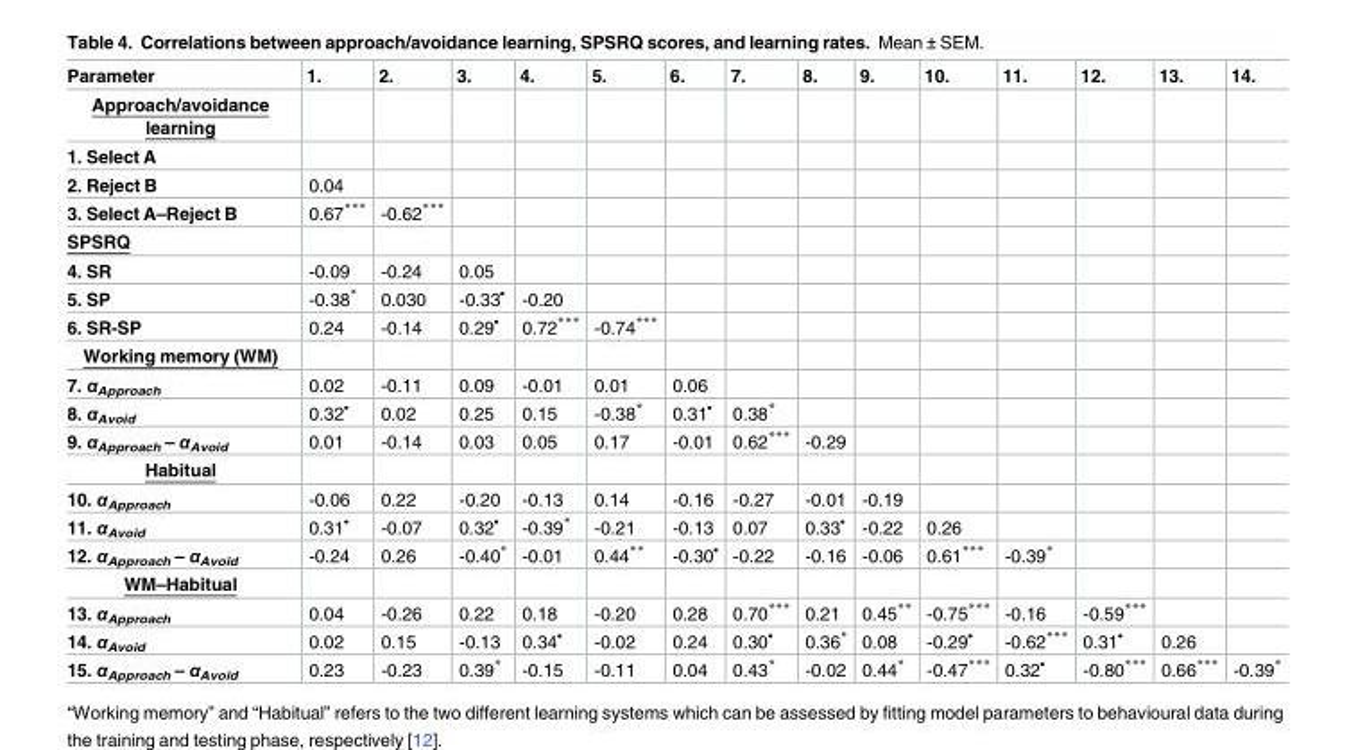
<table><thead><tr><td>Parameter</td><td>1.</td><td>2.</td><td>3.</td><td>4.</td><td>5.</td><td>6.</td><td>7.</td><td>8.</td><td>9.</td><td>10.</td><td>11.</td><td>12.</td><td>13.</td><td>14.</td></tr></thead><tbody><tr><td colspan="15">Approach/avoidance learning</td></tr><tr><td colspan="15">1. Select A</td></tr><tr><td>2. Reject B</td><td>0.04</td><td></td><td></td><td></td><td></td><td></td><td></td><td></td><td></td><td></td><td></td><td></td><td></td><td></td></tr><tr><td>3. Select A–Reject B</td><td>0.67***</td><td>-0.62***</td><td></td><td></td><td></td><td></td><td></td><td></td><td></td><td></td><td></td><td></td><td></td><td></td></tr><tr><td colspan="15">SPSRQ</td></tr><tr><td>4. SR</td><td>-0.09</td><td>-0.24</td><td>0.05</td><td></td><td></td><td></td><td></td><td></td><td></td><td></td><td></td><td></td><td></td><td></td></tr><tr><td>5. SP</td><td>-0.38*</td><td>0.030</td><td>-0.33<sup>•</sup></td><td>-0.20</td><td></td><td></td><td></td><td></td><td></td><td></td><td></td><td></td><td></td><td></td></tr><tr><td>6. SR-SP</td><td>0.24</td><td>-0.14</td><td>0.29<sup>•</sup></td><td>0.72***</td><td>-0.74***</td><td></td><td></td><td></td><td></td><td></td><td></td><td></td><td></td><td></td></tr><tr><td colspan="15">Working memory (WM)</td></tr><tr><td>7. α<sub>Approach</sub></td><td>0.02</td><td>-0.11</td><td>0.09</td><td>-0.01</td><td>0.01</td><td>0.06</td><td></td><td></td><td></td><td></td><td></td><td></td><td></td><td></td></tr><tr><td>8. α<sub>Avoid</sub></td><td>0.32<sup>•</sup></td><td>0.02</td><td>0.25</td><td>0.15</td><td>-0.38*</td><td>0.31<sup>•</sup></td><td>0.38*</td><td></td><td></td><td></td><td></td><td></td><td></td><td></td></tr><tr><td>9. α<sub>Approach</sub> – α<sub>Avoid</sub></td><td>0.01</td><td>-0.14</td><td>0.03</td><td>0.05</td><td>0.17</td><td>-0.01</td><td>0.62***</td><td>-0.29</td><td></td><td></td><td></td><td></td><td></td><td></td></tr><tr><td colspan="15">Habitual</td></tr><tr><td>10. α<sub>Approach</sub></td><td>-0.06</td><td>0.22</td><td>-0.20</td><td>-0.13</td><td>0.14</td><td>-0.16</td><td>-0.27</td><td>-0.01</td><td>-0.19</td><td></td><td></td><td></td><td></td><td></td></tr><tr><td>11. α<sub>Avoid</sub></td><td>0.31<sup>•</sup></td><td>-0.07</td><td>0.32<sup>•</sup></td><td>-0.39*</td><td>-0.21</td><td>-0.13</td><td>0.07</td><td>0.33<sup>•</sup></td><td>-0.22</td><td>0.26</td><td></td><td></td><td></td><td></td></tr><tr><td>12. α<sub>Approach</sub> – α<sub>Avoid</sub></td><td>-0.24</td><td>0.26</td><td>-0.40*</td><td>-0.01</td><td>0.44**</td><td>-0.30<sup>•</sup></td><td>-0.22</td><td>-0.16</td><td>-0.06</td><td>0.61***</td><td>-0.39*</td><td></td><td></td><td></td></tr><tr><td colspan="15">WM–Habitual</td></tr><tr><td>13. α<sub>Approach</sub></td><td>0.04</td><td>-0.26</td><td>0.22</td><td>0.18</td><td>-0.20</td><td>0.28</td><td>0.70***</td><td>0.21</td><td>0.45**</td><td>-0.75***</td><td>-0.16</td><td>-0.59***</td><td></td><td></td></tr><tr><td>14. α<sub>Avoid</sub></td><td>0.02</td><td>0.15</td><td>-0.13</td><td>0.34<sup>•</sup></td><td>-0.02</td><td>0.24</td><td>0.30<sup>•</sup></td><td>0.36*</td><td>0.08</td><td>-0.29<sup>•</sup></td><td>-0.62***</td><td>0.31<sup>•</sup></td><td>0.26</td><td></td></tr><tr><td>15. α<sub>Approach</sub> – α<sub>Avoid</sub></td><td>0.23</td><td>-0.23</td><td>0.39*</td><td>-0.15</td><td>-0.11</td><td>0.04</td><td>0.43*</td><td>-0.02</td><td>0.44*</td><td>-0.47***</td><td>0.32<sup>•</sup></td><td>-0.80***</td><td>0.66***</td><td>-0.39*</td></tr></tbody></table>